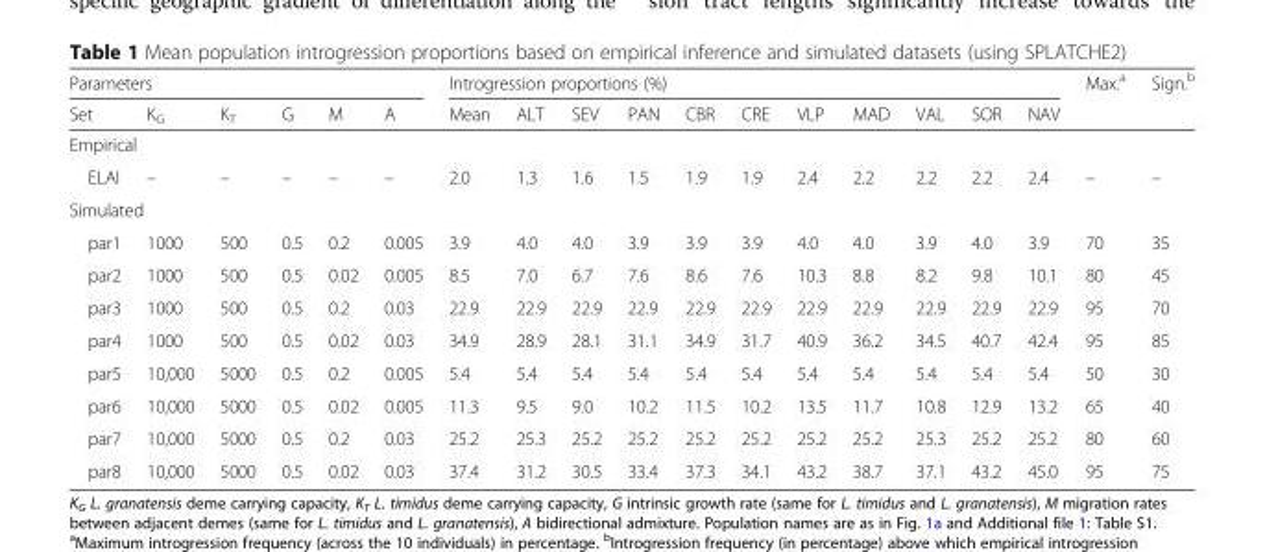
<table><thead><tr><td colspan="6">Parameters</td><td colspan="11">Introgression proportions (%)</td><td rowspan="2">Max.<sup>a</sup></td><td rowspan="2">Sign.<sup>b</sup></td></tr><tr><td>Set</td><td>K<sub>G</sub></td><td>K<sub>T</sub></td><td>G</td><td>M</td><td>A</td><td>Mean</td><td>ALT</td><td>SEV</td><td>PAN</td><td>CBR</td><td>CRE</td><td>VLP</td><td>MAD</td><td>VAL</td><td>SOR</td><td>NAV</td></tr></thead><tbody><tr><td colspan="19">Empirical</td></tr><tr><td>ELAI</td><td>–</td><td>–</td><td>–</td><td>–</td><td>–</td><td>2.0</td><td>1.3</td><td>1.6</td><td>1.5</td><td>1.9</td><td>1.9</td><td>2.4</td><td>2.2</td><td>2.2</td><td>2.2</td><td>2.4</td><td>–</td><td>–</td></tr><tr><td colspan="19">Simulated</td></tr><tr><td>par1</td><td>1000</td><td>500</td><td>0.5</td><td>0.2</td><td>0.005</td><td>3.9</td><td>4.0</td><td>4.0</td><td>3.9</td><td>3.9</td><td>3.9</td><td>4.0</td><td>4.0</td><td>3.9</td><td>4.0</td><td>3.9</td><td>70</td><td>35</td></tr><tr><td>par2</td><td>1000</td><td>500</td><td>0.5</td><td>0.02</td><td>0.005</td><td>8.5</td><td>7.0</td><td>6.7</td><td>7.6</td><td>8.6</td><td>7.6</td><td>10.3</td><td>8.8</td><td>8.2</td><td>9.8</td><td>10.1</td><td>80</td><td>45</td></tr><tr><td>par3</td><td>1000</td><td>500</td><td>0.5</td><td>0.2</td><td>0.03</td><td>22.9</td><td>22.9</td><td>22.9</td><td>22.9</td><td>22.9</td><td>22.9</td><td>22.9</td><td>22.9</td><td>22.9</td><td>22.9</td><td>22.9</td><td>95</td><td>70</td></tr><tr><td>par4</td><td>1000</td><td>500</td><td>0.5</td><td>0.02</td><td>0.03</td><td>34.9</td><td>28.9</td><td>28.1</td><td>31.1</td><td>34.9</td><td>31.7</td><td>40.9</td><td>36.2</td><td>34.5</td><td>40.7</td><td>42.4</td><td>95</td><td>85</td></tr><tr><td>par5</td><td>10,000</td><td>5000</td><td>0.5</td><td>0.2</td><td>0.005</td><td>5.4</td><td>5.4</td><td>5.4</td><td>5.4</td><td>5.4</td><td>5.4</td><td>5.4</td><td>5.4</td><td>5.4</td><td>5.4</td><td>5.4</td><td>50</td><td>30</td></tr><tr><td>par6</td><td>10,000</td><td>5000</td><td>0.5</td><td>0.02</td><td>0.005</td><td>11.3</td><td>9.5</td><td>9.0</td><td>10.2</td><td>11.5</td><td>10.2</td><td>13.5</td><td>11.7</td><td>10.8</td><td>12.9</td><td>13.2</td><td>65</td><td>40</td></tr><tr><td>par7</td><td>10,000</td><td>5000</td><td>0.5</td><td>0.2</td><td>0.03</td><td>25.2</td><td>25.3</td><td>25.2</td><td>25.2</td><td>25.2</td><td>25.2</td><td>25.2</td><td>25.2</td><td>25.3</td><td>25.2</td><td>25.2</td><td>80</td><td>60</td></tr><tr><td>par8</td><td>10,000</td><td>5000</td><td>0.5</td><td>0.02</td><td>0.03</td><td>37.4</td><td>31.2</td><td>30.5</td><td>33.4</td><td>37.3</td><td>34.1</td><td>43.2</td><td>38.7</td><td>37.1</td><td>43.2</td><td>45.0</td><td>95</td><td>75</td></tr></tbody></table>